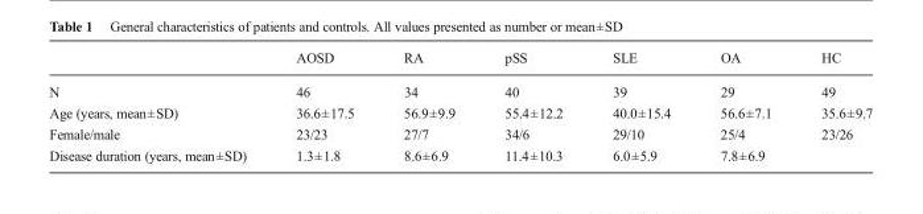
<table><thead><tr><td></td><td>AOSD</td><td>RA</td><td>pSS</td><td>SLE</td><td>OA</td><td>HC</td></tr></thead><tbody><tr><td>N</td><td>46</td><td>34</td><td>40</td><td>39</td><td>29</td><td>49</td></tr><tr><td>Age (years, mean±SD)</td><td>36.6±17.5</td><td>56.9±9.9</td><td>55.4±12.2</td><td>40.0±15.4</td><td>56.6±7.1</td><td>35.6±9.7</td></tr><tr><td>Female/male</td><td>23/23</td><td>27/7</td><td>34/6</td><td>29/10</td><td>25/4</td><td>23/26</td></tr><tr><td>Disease duration (years, mean±SD)</td><td>1.3±1.8</td><td>8.6±6.9</td><td>11.4±10.3</td><td>6.0±5.9</td><td>7.8±6.9</td><td></td></tr></tbody></table>